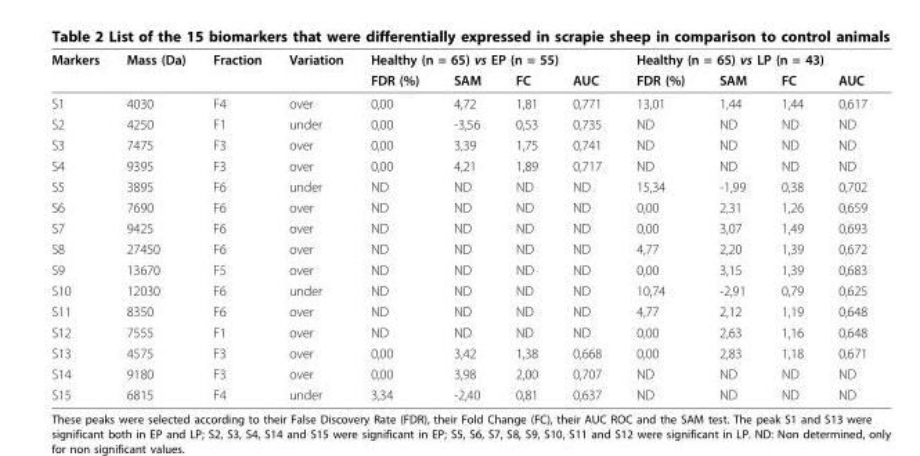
<table><thead><tr><td rowspan="2">Markers</td><td rowspan="2">Mass (Da)</td><td rowspan="2">Fraction</td><td rowspan="2">Variation</td><td colspan="4">Healthy (n = 65) vs EP (n = 55)</td><td colspan="4">Healthy (n = 65) vs LP (n = 43)</td></tr><tr><td>FDR (%)</td><td>SAM</td><td>FC</td><td>AUC</td><td>FDR (%)</td><td>SAM</td><td>FC</td><td>AUC</td></tr></thead><tbody><tr><td>S1</td><td>4030</td><td>F4</td><td>over</td><td>0,00</td><td>4,72</td><td>1,81</td><td>0,771</td><td>13,01</td><td>1,44</td><td>1,44</td><td>0,617</td></tr><tr><td>S2</td><td>4250</td><td>F1</td><td>under</td><td>0,00</td><td>-3,56</td><td>0,53</td><td>0,735</td><td>ND</td><td>ND</td><td>ND</td><td>ND</td></tr><tr><td>S3</td><td>7475</td><td>F3</td><td>over</td><td>0,00</td><td>3,39</td><td>1,75</td><td>0,741</td><td>ND</td><td>ND</td><td>ND</td><td>ND</td></tr><tr><td>S4</td><td>9395</td><td>F3</td><td>over</td><td>0,00</td><td>4,21</td><td>1,89</td><td>0,717</td><td>ND</td><td>ND</td><td>ND</td><td>ND</td></tr><tr><td>S5</td><td>3895</td><td>F6</td><td>under</td><td>ND</td><td>ND</td><td>ND</td><td>ND</td><td>15,34</td><td>-1,99</td><td>0,38</td><td>0,702</td></tr><tr><td>S6</td><td>7690</td><td>F6</td><td>over</td><td>ND</td><td>ND</td><td>ND</td><td>ND</td><td>0,00</td><td>2,31</td><td>1,26</td><td>0,659</td></tr><tr><td>S7</td><td>9425</td><td>F6</td><td>over</td><td>ND</td><td>ND</td><td>ND</td><td>ND</td><td>0,00</td><td>3,07</td><td>1,49</td><td>0,693</td></tr><tr><td>S8</td><td>27450</td><td>F6</td><td>over</td><td>ND</td><td>ND</td><td>ND</td><td>ND</td><td>4,77</td><td>2,20</td><td>1,39</td><td>0,672</td></tr><tr><td>S9</td><td>13670</td><td>F5</td><td>over</td><td>ND</td><td>ND</td><td>ND</td><td>ND</td><td>0,00</td><td>3,15</td><td>1,39</td><td>0,683</td></tr><tr><td>S10</td><td>12030</td><td>F6</td><td>under</td><td>ND</td><td>ND</td><td>ND</td><td>ND</td><td>10,74</td><td>-2,91</td><td>0,79</td><td>0,625</td></tr><tr><td>S11</td><td>8350</td><td>F6</td><td>over</td><td>ND</td><td>ND</td><td>ND</td><td>ND</td><td>4,77</td><td>2,12</td><td>1,19</td><td>0,648</td></tr><tr><td>S12</td><td>7555</td><td>F1</td><td>over</td><td>ND</td><td>ND</td><td>ND</td><td>ND</td><td>0,00</td><td>2,63</td><td>1,16</td><td>0,648</td></tr><tr><td>S13</td><td>4575</td><td>F3</td><td>over</td><td>0,00</td><td>3,42</td><td>1,38</td><td>0,668</td><td>0,00</td><td>2,83</td><td>1,18</td><td>0,671</td></tr><tr><td>S14</td><td>9180</td><td>F3</td><td>over</td><td>0,00</td><td>3,98</td><td>2,00</td><td>0,707</td><td>ND</td><td>ND</td><td>ND</td><td>ND</td></tr><tr><td>S15</td><td>6815</td><td>F4</td><td>under</td><td>3,34</td><td>-2,40</td><td>0,81</td><td>0,637</td><td>ND</td><td>ND</td><td>ND</td><td>ND</td></tr></tbody></table>